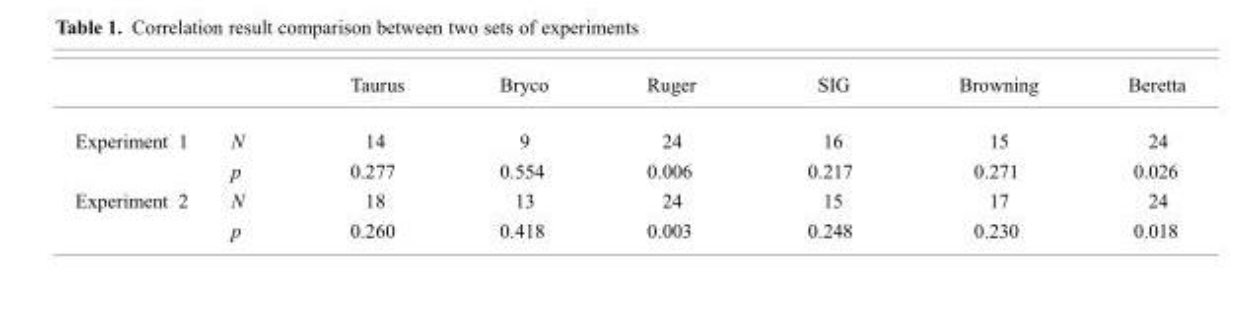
<table><thead><tr><td></td><td></td><td>Taurus</td><td>Bryco</td><td>Ruger</td><td>SIG</td><td>Browning</td><td>Beretta</td></tr></thead><tbody><tr><td rowspan="2">Experiment 1</td><td>N</td><td>14</td><td>9</td><td>24</td><td>16</td><td>15</td><td>24</td></tr><tr><td>p</td><td>0.277</td><td>0.554</td><td>0.006</td><td>0.217</td><td>0.271</td><td>0.026</td></tr><tr><td rowspan="2">Experiment 2</td><td>N</td><td>18</td><td>13</td><td>24</td><td>15</td><td>17</td><td>24</td></tr><tr><td>p</td><td>0.260</td><td>0.418</td><td>0.003</td><td>0.248</td><td>0.230</td><td>0.018</td></tr></tbody></table>